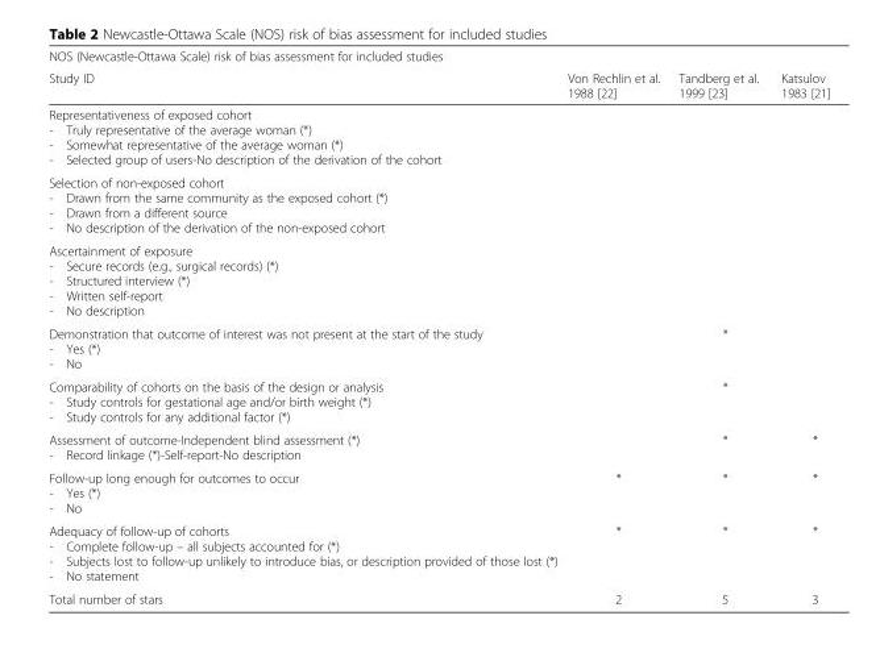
<table><thead><tr><td rowspan="2">NOS (Newcastle-Ottawa Scale) risk of bias assessment for included studies Study ID</td><td rowspan="2">Von Rechlin et al. 1988 [22]</td><td rowspan="2">Tandberg et al. 1999 [23]</td><td rowspan="2">Katsulov 1983 [21]</td></tr><tr></tr></thead><tbody><tr><td colspan="4">Representativeness of exposed cohort - Truly representative of the average woman (*) - Somewhat representative of the average woman (*) - Selected group of users-No description of the derivation of the cohort</td></tr><tr><td colspan="4">Selection of non-exposed cohort - Drawn from the same community as the exposed cohort (*) - Drawn from a different source - No description of the derivation of the non-exposed cohort</td></tr><tr><td colspan="4">Ascertainment of exposure - Secure records (e.g., surgical records) (*) - Structured interview (*) - Written self-report - No description</td></tr><tr><td>Demonstration that outcome of interest was not present at the start of the study - Yes (*) - No</td><td></td><td>*</td><td></td></tr><tr><td>Comparability of cohorts on the basis of the design or analysis - Study controls for gestational age and/or birth weight (*) - Study controls for any additional factor (*)</td><td></td><td>*</td><td></td></tr><tr><td>Assessment of outcome-Independent blind assessment (*) - Record linkage (*)-Self-report-No description</td><td></td><td>*</td><td>*</td></tr><tr><td>Follow-up long enough for outcomes to occur - Yes (*) - No</td><td>*</td><td>*</td><td>*</td></tr><tr><td>Adequacy of follow-up of cohorts - Complete follow-up – all subjects accounted for (*) - Subjects lost to follow-up unlikely to introduce bias, or description provided of those lost (*) - No statement</td><td>*</td><td>*</td><td>*</td></tr><tr><td>Total number of stars</td><td>2</td><td>5</td><td>3</td></tr></tbody></table>